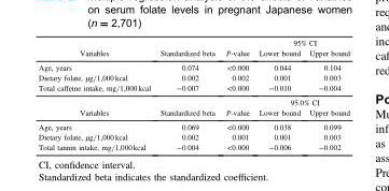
<table><thead><tr><td rowspan="2">Variables</td><td rowspan="2">Standardized beta</td><td rowspan="2">P-value</td><td colspan="2">95% CI</td></tr><tr><td>Lower bound</td><td>Upper bound</td></tr></thead><tbody><tr><td>Age, years</td><td>0.074</td><td>&lt;0.000</td><td>0.044</td><td>0.104</td></tr><tr><td>Dietary folate, µg=1,000kcal</td><td>0.002</td><td>0.002</td><td>0.001</td><td>0.003</td></tr><tr><td rowspan="2">Total caffeine intake, mg=1,000kcal</td><td>−0.007</td><td>&lt;0.000</td><td>−0.010</td><td>−0.004</td></tr><tr><td></td><td></td><td colspan="2">95.0% CI</td></tr><tr><td>Variables</td><td>Standardized beta</td><td>P-value</td><td>Lower bound</td><td>Upper bound</td></tr><tr><td>Age, years</td><td>0.069</td><td>&lt;0.000</td><td>0.038</td><td>0.099</td></tr><tr><td>Dietary folate, µg=1,000kcal</td><td>0.002</td><td>0.001</td><td>0.001</td><td>0.003</td></tr><tr><td>Total tannin intake, mg=1,000kcal</td><td>−0.004</td><td>&lt;0.000</td><td>−0.006</td><td>−0.002</td></tr></tbody></table>